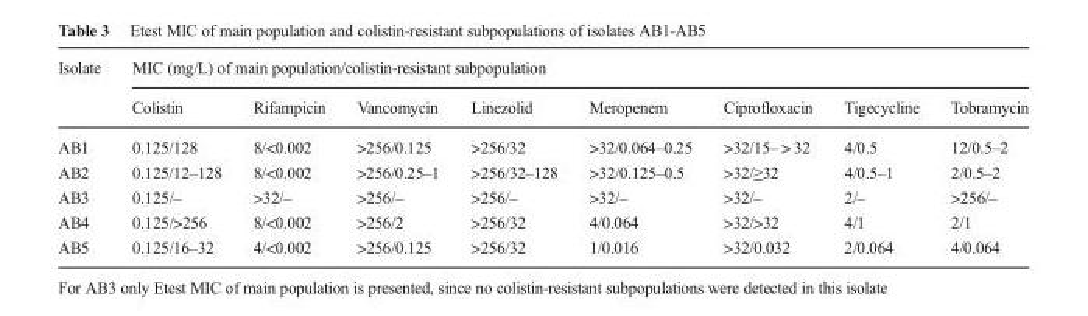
<table><thead><tr><td rowspan="2">Isolate</td><td colspan="8">MIC (mg/L) of main population/colistin-resistant subpopulation</td></tr><tr><td>Colistin</td><td>Rifampicin</td><td>Vancomycin</td><td>Linezolid</td><td>Meropenem</td><td>Ciprofloxacin</td><td>Tigecycline</td><td>Tobramycin</td></tr></thead><tbody><tr><td>AB1</td><td>0.125/128</td><td>8/&lt;0.002</td><td>&gt;256/0.125</td><td>&gt;256/32</td><td>&gt;32/0.064–0.25</td><td>&gt;32/15– &gt; 32</td><td>4/0.5</td><td>12/0.5–2</td></tr><tr><td>AB2</td><td>0.125/12–128</td><td>8/&lt;0.002</td><td>&gt;256/0.25–1</td><td>&gt;256/32–128</td><td>&gt;32/0.125–0.5</td><td>&gt;32/≥32</td><td>4/0.5–1</td><td>2/0.5–2</td></tr><tr><td>AB3</td><td>0.125/–</td><td>&gt;32/–</td><td>&gt;256/–</td><td>&gt;256/–</td><td>&gt;32/–</td><td>&gt;32/–</td><td>2/–</td><td>&gt;256/–</td></tr><tr><td>AB4</td><td>0.125/&gt;256</td><td>8/&lt;0.002</td><td>&gt;256/2</td><td>&gt;256/32</td><td>4/0.064</td><td>&gt;32/&gt;32</td><td>4/1</td><td>2/1</td></tr><tr><td>AB5</td><td>0.125/16–32</td><td>4/&lt;0.002</td><td>&gt;256/0.125</td><td>&gt;256/32</td><td>1/0.016</td><td>&gt;32/0.032</td><td>2/0.064</td><td>4/0.064</td></tr></tbody></table>